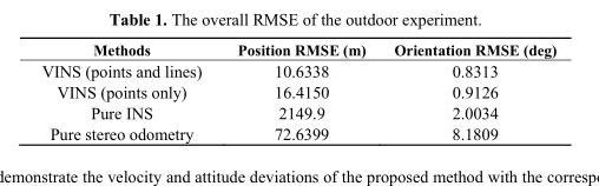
<table><thead><tr><td>Methods</td><td>Position RMSE (m)</td><td>Orientation RMSE (deg)</td></tr></thead><tbody><tr><td>VINS (points and lines)</td><td>10.6338</td><td>0.8313</td></tr><tr><td>VINS (points only)</td><td>16.4150</td><td>0.9126</td></tr><tr><td>Pure INS</td><td>2149.9</td><td>2.0034</td></tr><tr><td>Pure stereo odometry</td><td>72.6399</td><td>8.1809</td></tr></tbody></table>